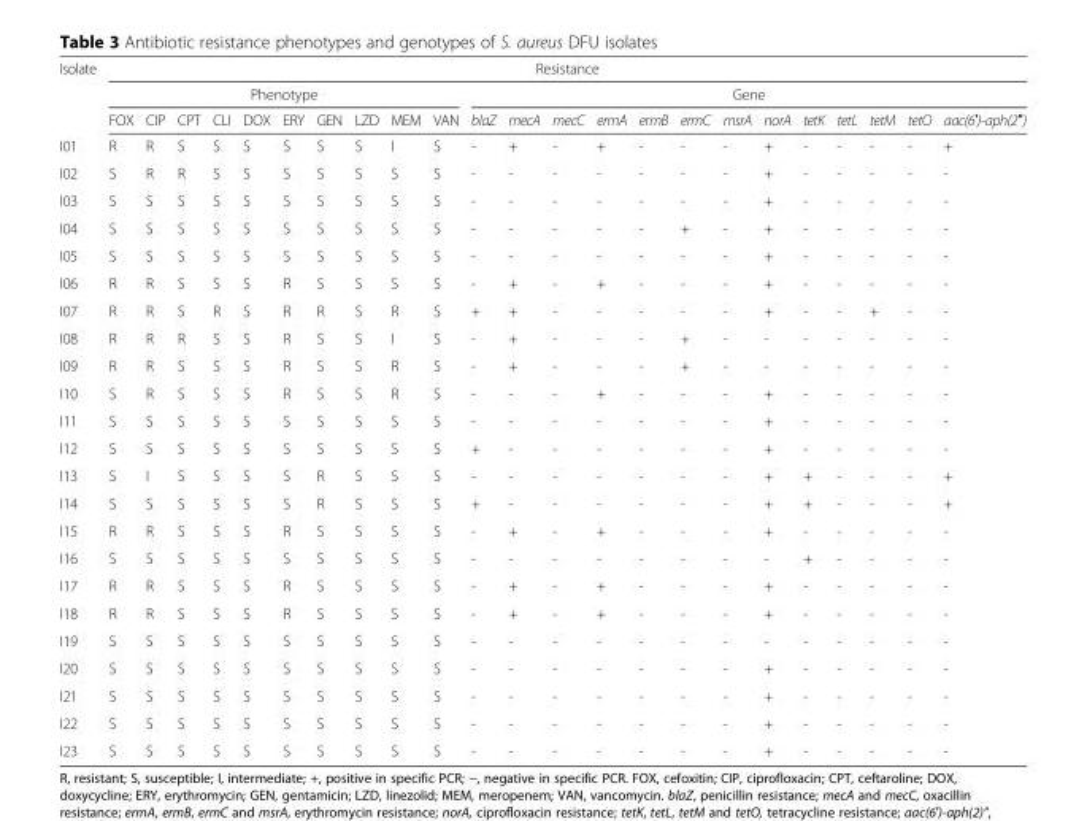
<table><thead><tr><td rowspan="3">Isolate</td><td colspan="23">Resistance</td></tr><tr><td colspan="10">Phenotype</td><td colspan="13">Gene</td></tr><tr><td>FOX</td><td>CIP</td><td>CPT</td><td>CLI</td><td>DOX</td><td>ERY</td><td>GEN</td><td>LZD</td><td>MEM</td><td>VAN</td><td>blaZ</td><td>mecA</td><td>mecC</td><td>ermA</td><td>ermB</td><td>ermC</td><td>msrA</td><td>norA</td><td>tetK</td><td>tetL</td><td>tetM</td><td>tetO</td><td>aac(6′)-aph(2″)</td></tr></thead><tbody><tr><td>I01</td><td>R</td><td>R</td><td>S</td><td>S</td><td>S</td><td>S</td><td>S</td><td>S</td><td>I</td><td>S</td><td>-</td><td>+</td><td>-</td><td>+</td><td>-</td><td>-</td><td>-</td><td>+</td><td>-</td><td>-</td><td>-</td><td>-</td><td>+</td></tr><tr><td>I02</td><td>S</td><td>R</td><td>R</td><td>S</td><td>S</td><td>S</td><td>S</td><td>S</td><td>S</td><td>S</td><td>-</td><td>-</td><td>-</td><td>-</td><td>-</td><td>-</td><td>-</td><td>+</td><td>-</td><td>-</td><td>-</td><td>-</td><td>-</td></tr><tr><td>I03</td><td>S</td><td>S</td><td>S</td><td>S</td><td>S</td><td>S</td><td>S</td><td>S</td><td>S</td><td>S</td><td>-</td><td>-</td><td>-</td><td>-</td><td>-</td><td>-</td><td>-</td><td>+</td><td>-</td><td>-</td><td>-</td><td>-</td><td>-</td></tr><tr><td>I04</td><td>S</td><td>S</td><td>S</td><td>S</td><td>S</td><td>S</td><td>S</td><td>S</td><td>S</td><td>S</td><td>-</td><td>-</td><td>-</td><td>-</td><td>-</td><td>+</td><td>-</td><td>+</td><td>-</td><td>-</td><td>-</td><td>-</td><td>-</td></tr><tr><td>I05</td><td>S</td><td>S</td><td>S</td><td>S</td><td>S</td><td>S</td><td>S</td><td>S</td><td>S</td><td>S</td><td>-</td><td>-</td><td>-</td><td>-</td><td>-</td><td>-</td><td>-</td><td>+</td><td>-</td><td>-</td><td>-</td><td>-</td><td>-</td></tr><tr><td>I06</td><td>R</td><td>R</td><td>S</td><td>S</td><td>S</td><td>R</td><td>S</td><td>S</td><td>S</td><td>S</td><td>-</td><td>+</td><td>-</td><td>+</td><td>-</td><td>-</td><td>-</td><td>+</td><td>-</td><td>-</td><td>-</td><td>-</td><td>-</td></tr><tr><td>I07</td><td>R</td><td>R</td><td>S</td><td>R</td><td>S</td><td>R</td><td>R</td><td>S</td><td>R</td><td>S</td><td>+</td><td>+</td><td>-</td><td>-</td><td>-</td><td>-</td><td>-</td><td>+</td><td>-</td><td>-</td><td>+</td><td>-</td><td>-</td></tr><tr><td>I08</td><td>R</td><td>R</td><td>R</td><td>S</td><td>S</td><td>R</td><td>S</td><td>S</td><td>I</td><td>S</td><td>-</td><td>+</td><td>-</td><td>-</td><td>-</td><td>+</td><td>-</td><td>-</td><td>-</td><td>-</td><td>-</td><td>-</td><td>-</td></tr><tr><td>I09</td><td>R</td><td>R</td><td>S</td><td>S</td><td>S</td><td>R</td><td>S</td><td>S</td><td>R</td><td>S</td><td>-</td><td>+</td><td>-</td><td>-</td><td>-</td><td>+</td><td>-</td><td>-</td><td>-</td><td>-</td><td>-</td><td>-</td><td>-</td></tr><tr><td>I10</td><td>S</td><td>R</td><td>S</td><td>S</td><td>S</td><td>R</td><td>S</td><td>S</td><td>R</td><td>S</td><td>-</td><td>-</td><td>-</td><td>+</td><td>-</td><td>-</td><td>-</td><td>+</td><td>-</td><td>-</td><td>-</td><td>-</td><td>-</td></tr><tr><td>I11</td><td>S</td><td>S</td><td>S</td><td>S</td><td>S</td><td>S</td><td>S</td><td>S</td><td>S</td><td>S</td><td>-</td><td>-</td><td>-</td><td>-</td><td>-</td><td>-</td><td>-</td><td>+</td><td>-</td><td>-</td><td>-</td><td>-</td><td>-</td></tr><tr><td>I12</td><td>S</td><td>S</td><td>S</td><td>S</td><td>S</td><td>S</td><td>S</td><td>S</td><td>S</td><td>S</td><td>+</td><td>-</td><td>-</td><td>-</td><td>-</td><td>-</td><td>-</td><td>+</td><td>-</td><td>-</td><td>-</td><td>-</td><td>-</td></tr><tr><td>I13</td><td>S</td><td>I</td><td>S</td><td>S</td><td>S</td><td>S</td><td>R</td><td>S</td><td>S</td><td>S</td><td>-</td><td>-</td><td>-</td><td>-</td><td>-</td><td>-</td><td>-</td><td>+</td><td>+</td><td>-</td><td>-</td><td>-</td><td>+</td></tr><tr><td>I14</td><td>S</td><td>S</td><td>S</td><td>S</td><td>S</td><td>S</td><td>R</td><td>S</td><td>S</td><td>S</td><td>+</td><td>-</td><td>-</td><td>-</td><td>-</td><td>-</td><td>-</td><td>+</td><td>+</td><td>-</td><td>-</td><td>-</td><td>+</td></tr><tr><td>I15</td><td>R</td><td>R</td><td>S</td><td>S</td><td>S</td><td>R</td><td>S</td><td>S</td><td>S</td><td>S</td><td>-</td><td>+</td><td>-</td><td>+</td><td>-</td><td>-</td><td>-</td><td>+</td><td>-</td><td>-</td><td>-</td><td>-</td><td>-</td></tr><tr><td>I16</td><td>S</td><td>S</td><td>S</td><td>S</td><td>S</td><td>S</td><td>S</td><td>S</td><td>S</td><td>S</td><td>-</td><td>-</td><td>-</td><td>-</td><td>-</td><td>-</td><td>-</td><td>-</td><td>+</td><td>-</td><td>-</td><td>-</td><td>-</td></tr><tr><td>I17</td><td>R</td><td>R</td><td>S</td><td>S</td><td>S</td><td>R</td><td>S</td><td>S</td><td>S</td><td>S</td><td>-</td><td>+</td><td>-</td><td>+</td><td>-</td><td>-</td><td>-</td><td>+</td><td>-</td><td>-</td><td>-</td><td>-</td><td>-</td></tr><tr><td>I18</td><td>R</td><td>R</td><td>S</td><td>S</td><td>S</td><td>R</td><td>S</td><td>S</td><td>S</td><td>S</td><td>-</td><td>+</td><td>-</td><td>+</td><td>-</td><td>-</td><td>-</td><td>+</td><td>-</td><td>-</td><td>-</td><td>-</td><td>-</td></tr><tr><td>I19</td><td>S</td><td>S</td><td>S</td><td>S</td><td>S</td><td>S</td><td>S</td><td>S</td><td>S</td><td>S</td><td>-</td><td>-</td><td>-</td><td>-</td><td>-</td><td>-</td><td>-</td><td>-</td><td>-</td><td>-</td><td>-</td><td>-</td><td>-</td></tr><tr><td>I20</td><td>S</td><td>S</td><td>S</td><td>S</td><td>S</td><td>S</td><td>S</td><td>S</td><td>S</td><td>S</td><td>-</td><td>-</td><td>-</td><td>-</td><td>-</td><td>-</td><td>-</td><td>+</td><td>-</td><td>-</td><td>-</td><td>-</td><td>-</td></tr><tr><td>I21</td><td>S</td><td>S</td><td>S</td><td>S</td><td>S</td><td>S</td><td>S</td><td>S</td><td>S</td><td>S</td><td>-</td><td>-</td><td>-</td><td>-</td><td>-</td><td>-</td><td>-</td><td>+</td><td>-</td><td>-</td><td>-</td><td>-</td><td>-</td></tr><tr><td>I22</td><td>S</td><td>S</td><td>S</td><td>S</td><td>S</td><td>S</td><td>S</td><td>S</td><td>S</td><td>S</td><td>-</td><td>-</td><td>-</td><td>-</td><td>-</td><td>-</td><td>-</td><td>+</td><td>-</td><td>-</td><td>-</td><td>-</td><td>-</td></tr><tr><td>I23</td><td>S</td><td>S</td><td>S</td><td>S</td><td>S</td><td>S</td><td>S</td><td>S</td><td>S</td><td>S</td><td>-</td><td>-</td><td>-</td><td>-</td><td>-</td><td>-</td><td>-</td><td>+</td><td>-</td><td>-</td><td>-</td><td>-</td><td>-</td></tr></tbody></table>